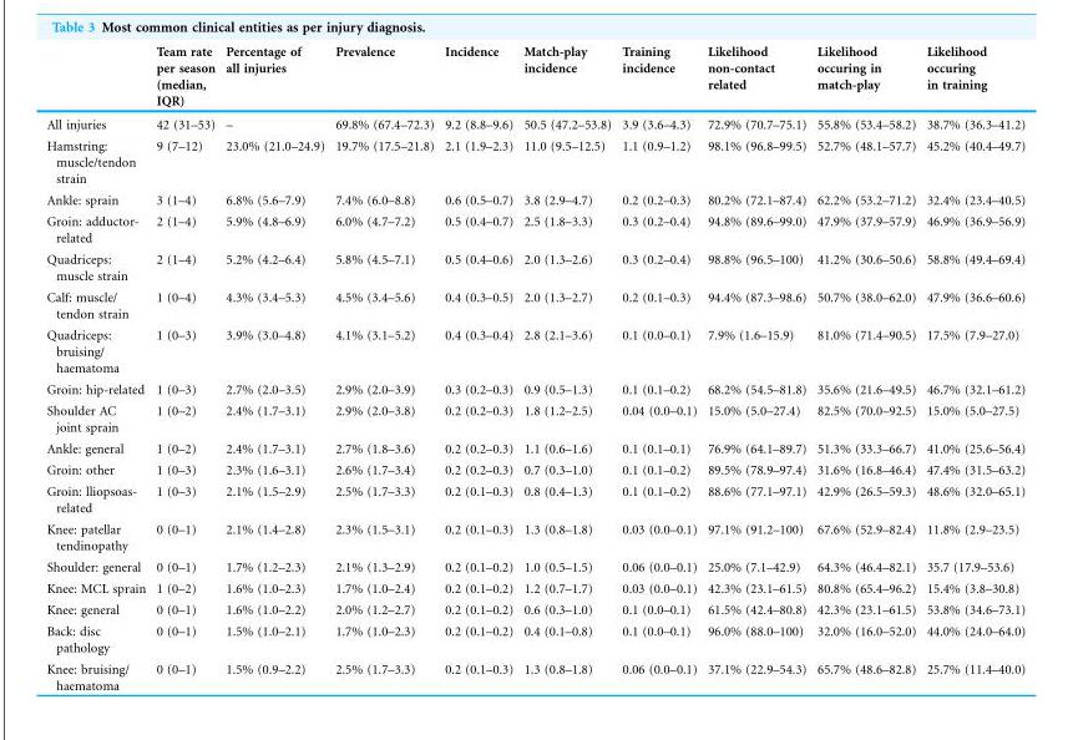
<table><thead><tr><td></td><td>Team rate per season (median, IQR)</td><td>Percentage of all injuries</td><td>Prevalence</td><td>Incidence</td><td>Match-play incidence</td><td>Training incidence</td><td>Likelihood non-contact related</td><td>Likelihood occuring in match-play</td><td>Likelihood occuring in training</td></tr></thead><tbody><tr><td>All injuries</td><td>42 (31–53)</td><td>–</td><td>69.8% (67.4–72.3)</td><td>9.2 (8.8–9.6)</td><td>50.5 (47.2–53.8)</td><td>3.9 (3.6–4.3)</td><td>72.9% (70.7–75.1)</td><td>55.8% (53.4–58.2)</td><td>38.7% (36.3–41.2)</td></tr><tr><td>Hamstring: muscle/tendon strain</td><td>9 (7–12)</td><td>23.0% (21.0–24.9)</td><td>19.7% (17.5–21.8)</td><td>2.1 (1.9–2.3)</td><td>11.0 (9.5–12.5)</td><td>1.1 (0.9–1.2)</td><td>98.1% (96.8–99.5)</td><td>52.7% (48.1–57.7)</td><td>45.2% (40.4–49.7)</td></tr><tr><td>Ankle: sprain</td><td>3 (1–4)</td><td>6.8% (5.6–7.9)</td><td>7.4% (6.0–8.8)</td><td>0.6 (0.5–0.7)</td><td>3.8 (2.9–4.7)</td><td>0.2 (0.2–0.3)</td><td>80.2% (72.1–87.4)</td><td>62.2% (53.2–71.2)</td><td>32.4% (23.4–40.5)</td></tr><tr><td>Groin: adductor- related</td><td>2 (1–4)</td><td>5.9% (4.8–6.9)</td><td>6.0% (4.7–7.2)</td><td>0.5 (0.4–0.7)</td><td>2.5 (1.8–3.3)</td><td>0.3 (0.2–0.4)</td><td>94.8% (89.6–99.0)</td><td>47.9% (37.9–57.9)</td><td>46.9% (36.9–56.9)</td></tr><tr><td>Quadriceps: muscle strain</td><td>2 (1–4)</td><td>5.2% (4.2–6.4)</td><td>5.8% (4.5–7.1)</td><td>0.5 (0.4–0.6)</td><td>2.0 (1.3–2.6)</td><td>0.3 (0.2–0.4)</td><td>98.8% (96.5–100)</td><td>41.2% (30.6–50.6)</td><td>58.8% (49.4–69.4)</td></tr><tr><td>Calf: muscle/ tendon strain</td><td>1 (0–4)</td><td>4.3% (3.4–5.3)</td><td>4.5% (3.4–5.6)</td><td>0.4 (0.3–0.5)</td><td>2.0 (1.3–2.7)</td><td>0.2 (0.1–0.3)</td><td>94.4% (87.3–98.6)</td><td>50.7% (38.0–62.0)</td><td>47.9% (36.6–60.6)</td></tr><tr><td>Quadriceps: bruising/ haematoma</td><td>1 (0–3)</td><td>3.9% (3.0–4.8)</td><td>4.1% (3.1–5.2)</td><td>0.4 (0.3–0.4)</td><td>2.8 (2.1–3.6)</td><td>0.1 (0.0–0.1)</td><td>7.9% (1.6–15.9)</td><td>81.0% (71.4–90.5)</td><td>17.5% (7.9–27.0)</td></tr><tr><td>Groin: hip-related</td><td>1 (0–3)</td><td>2.7% (2.0–3.5)</td><td>2.9% (2.0–3.9)</td><td>0.3 (0.2–0.3)</td><td>0.9 (0.5–1.3)</td><td>0.1 (0.1–0.2)</td><td>68.2% (54.5–81.8)</td><td>35.6% (21.6–49.5)</td><td>46.7% (32.1–61.2)</td></tr><tr><td>Shoulder AC joint sprain</td><td>1 (0–2)</td><td>2.4% (1.7–3.1)</td><td>2.9% (2.0–3.8)</td><td>0.2 (0.2–0.3)</td><td>1.8 (1.2–2.5)</td><td>0.04 (0.0–0.1)</td><td>15.0% (5.0–27.4)</td><td>82.5% (70.0–92.5)</td><td>15.0% (5.0–27.5)</td></tr><tr><td>Ankle: general</td><td>1 (0–2)</td><td>2.4% (1.7–3.1)</td><td>2.7% (1.8–3.6)</td><td>0.2 (0.2–0.3)</td><td>1.1 (0.6–1.6)</td><td>0.1 (0.1–0.1)</td><td>76.9% (64.1–89.7)</td><td>51.3% (33.3–66.7)</td><td>41.0% (25.6–56.4)</td></tr><tr><td>Groin: other</td><td>1 (0–3)</td><td>2.3% (1.6–3.1)</td><td>2.6% (1.7–3.4)</td><td>0.2 (0.2–0.3)</td><td>0.7 (0.3–1.0)</td><td>0.1 (0.1–0.2)</td><td>89.5% (78.9–97.4)</td><td>31.6% (16.8–46.4)</td><td>47.4% (31.5–63.2)</td></tr><tr><td>Groin: lliopsoas- related</td><td>1 (0–3)</td><td>2.1% (1.5–2.9)</td><td>2.5% (1.7–3.3)</td><td>0.2 (0.1–0.3)</td><td>0.8 (0.4–1.3)</td><td>0.1 (0.1–0.2)</td><td>88.6% (77.1–97.1)</td><td>42.9% (26.5–59.3)</td><td>48.6% (32.0–65.1)</td></tr><tr><td>Knee: patellar tendinopathy</td><td>0 (0–1)</td><td>2.1% (1.4–2.8)</td><td>2.3% (1.5–3.1)</td><td>0.2 (0.1–0.3)</td><td>1.3 (0.8–1.8)</td><td>0.03 (0.0–0.1)</td><td>97.1% (91.2–100)</td><td>67.6% (52.9–82.4)</td><td>11.8% (2.9–23.5)</td></tr><tr><td>Shoulder: general</td><td>0 (0–1)</td><td>1.7% (1.2–2.3)</td><td>2.1% (1.3–2.9)</td><td>0.2 (0.1–0.2)</td><td>1.0 (0.5–1.5)</td><td>0.06 (0.0–0.1)</td><td>25.0% (7.1–42.9)</td><td>64.3% (46.4–82.1)</td><td>35.7 (17.9–53.6)</td></tr><tr><td>Knee: MCL sprain</td><td>1 (0–2)</td><td>1.6% (1.0–2.3)</td><td>1.7% (1.0–2.4)</td><td>0.2 (0.1–0.2)</td><td>1.2 (0.7–1.7)</td><td>0.03 (0.0–0.1)</td><td>42.3% (23.1–61.5)</td><td>80.8% (65.4–96.2)</td><td>15.4% (3.8–30.8)</td></tr><tr><td>Knee: general</td><td>0 (0–1)</td><td>1.6% (1.0–2.2)</td><td>2.0% (1.2–2.7)</td><td>0.2 (0.1–0.2)</td><td>0.6 (0.3–1.0)</td><td>0.1 (0.0–0.1)</td><td>61.5% (42.4–80.8)</td><td>42.3% (23.1–61.5)</td><td>53.8% (34.6–73.1)</td></tr><tr><td>Back: disc pathology</td><td>0 (0–1)</td><td>1.5% (1.0–2.1)</td><td>1.7% (1.0–2.3)</td><td>0.2 (0.1–0.2)</td><td>0.4 (0.1–0.8)</td><td>0.1 (0.0–0.1)</td><td>96.0% (88.0–100)</td><td>32.0% (16.0–52.0)</td><td>44.0% (24.0–64.0)</td></tr><tr><td>Knee: bruising/ haematoma</td><td>0 (0–1)</td><td>1.5% (0.9–2.2)</td><td>2.5% (1.7–3.3)</td><td>0.2 (0.1–0.3)</td><td>1.3 (0.8–1.8)</td><td>0.06 (0.0–0.1)</td><td>37.1% (22.9–54.3)</td><td>65.7% (48.6–82.8)</td><td>25.7% (11.4–40.0)</td></tr></tbody></table>